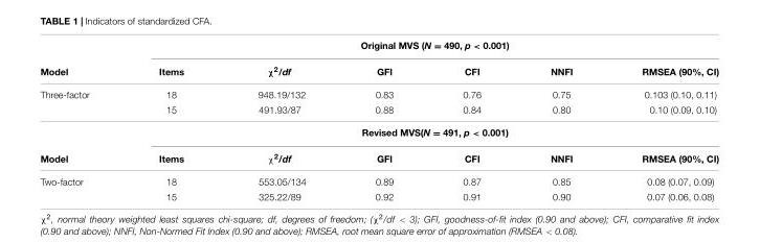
<table><thead><tr><td rowspan="2">Model</td><td colspan="6">Original MVS (N = 490, p &lt; 0.001)</td></tr><tr><td>Items</td><td>χ<sup>2</sup>/df</td><td>GFI</td><td>CFI</td><td>NNFI</td><td>RMSEA (90%, CI)</td></tr></thead><tbody><tr><td rowspan="3">Three-factor</td><td>18</td><td>948.19/132</td><td>0.83</td><td>0.76</td><td>0.75</td><td>0.103 (0.10, 0.11)</td></tr><tr><td>15</td><td>491.93/87</td><td>0.88</td><td>0.84</td><td>0.80</td><td>0.10 (0.09, 0.10)</td></tr><tr><td colspan="6">Revised MVS(N = 491, p &lt; 0.001)</td></tr><tr><td>Model</td><td>Items</td><td>χ<sup>2</sup>/df</td><td>GFI</td><td>CFI</td><td>NNFI</td><td>RMSEA (90%, CI)</td></tr><tr><td rowspan="2">Two-factor</td><td>18</td><td>553.05/134</td><td>0.89</td><td>0.87</td><td>0.85</td><td>0.08 (0.07, 0.09)</td></tr><tr><td>15</td><td>325.22/89</td><td>0.92</td><td>0.91</td><td>0.90</td><td>0.07 (0.06, 0.08)</td></tr></tbody></table>